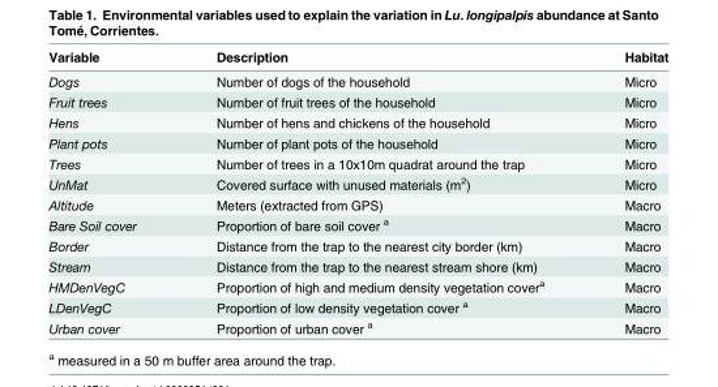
<table><thead><tr><td>Variable</td><td>Description</td><td>Habitat</td></tr></thead><tbody><tr><td>Dogs</td><td>Number of dogs of the household</td><td>Micro</td></tr><tr><td>Fruit trees</td><td>Number of fruit trees of the household</td><td>Micro</td></tr><tr><td>Hens</td><td>Number of hens and chickens of the household</td><td>Micro</td></tr><tr><td>Plant pots</td><td>Number of plant pots of the household</td><td>Micro</td></tr><tr><td>Trees</td><td>Number of trees in a 10x10m quadrat around the trap</td><td>Micro</td></tr><tr><td>UnMat</td><td>Covered surface with unused materials (m<sup>2</sup>)</td><td>Micro</td></tr><tr><td>Altitude</td><td>Meters (extracted from GPS)</td><td>Macro</td></tr><tr><td>Bare Soil cover</td><td>Proportion of bare soil cover <sup>a</sup></td><td>Macro</td></tr><tr><td>Border</td><td>Distance from the trap to the nearest city border (km)</td><td>Macro</td></tr><tr><td>Stream</td><td>Distance from the trap to the nearest stream shore (km)</td><td>Macro</td></tr><tr><td>HMDenVegC</td><td>Proportion of high and medium density vegetation cover<sup>a</sup></td><td>Macro</td></tr><tr><td>LDenVegC</td><td>Proportion of low density vegetation cover <sup>a</sup></td><td>Macro</td></tr><tr><td>Urban cover</td><td>Proportion of urban cover <sup>a</sup></td><td>Macro</td></tr></tbody></table>